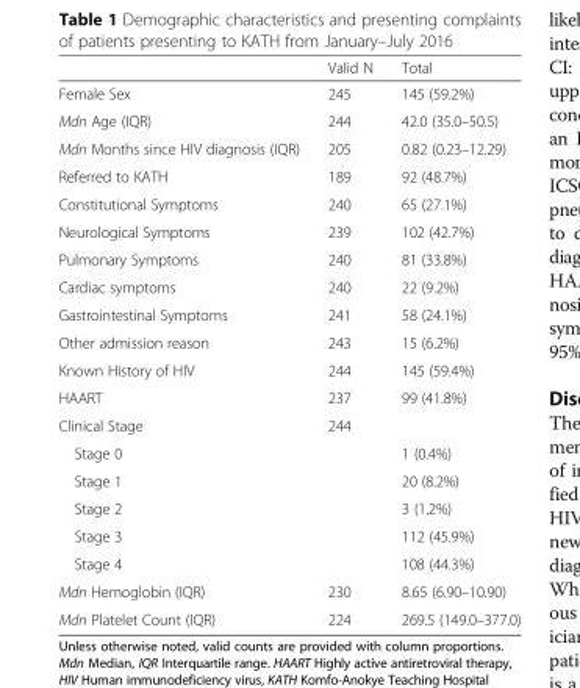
<table><thead><tr><td></td><td>Valid N</td><td>Total</td></tr></thead><tbody><tr><td>Female Sex</td><td>245</td><td>145 (59.2%)</td></tr><tr><td>Mdn Age (IQR)</td><td>244</td><td>42.0 (35.0–50.5)</td></tr><tr><td>Mdn Months since HIV diagnosis (IQR)</td><td>205</td><td>0.82 (0.23–12.29)</td></tr><tr><td>Referred to KATH</td><td>189</td><td>92 (48.7%)</td></tr><tr><td>Constitutional Symptoms</td><td>240</td><td>65 (27.1%)</td></tr><tr><td>Neurological Symptoms</td><td>239</td><td>102 (42.7%)</td></tr><tr><td>Pulmonary Symptoms</td><td>240</td><td>81 (33.8%)</td></tr><tr><td>Cardiac symptoms</td><td>240</td><td>22 (9.2%)</td></tr><tr><td>Gastrointestinal Symptoms</td><td>241</td><td>58 (24.1%)</td></tr><tr><td>Other admission reason</td><td>243</td><td>15 (6.2%)</td></tr><tr><td>Known History of HIV</td><td>244</td><td>145 (59.4%)</td></tr><tr><td>HAART</td><td>237</td><td>99 (41.8%)</td></tr><tr><td>Clinical Stage</td><td>244</td><td></td></tr><tr><td>Stage 0</td><td></td><td>1 (0.4%)</td></tr><tr><td>Stage 1</td><td></td><td>20 (8.2%)</td></tr><tr><td>Stage 2</td><td></td><td>3 (1.2%)</td></tr><tr><td>Stage 3</td><td></td><td>112 (45.9%)</td></tr><tr><td>Stage 4</td><td></td><td>108 (44.3%)</td></tr><tr><td>Mdn Hemoglobin (IQR)</td><td>230</td><td>8.65 (6.90–10.90)</td></tr><tr><td>Mdn Platelet Count (IQR)</td><td>224</td><td>269.5 (149.0–377.0)</td></tr></tbody></table>